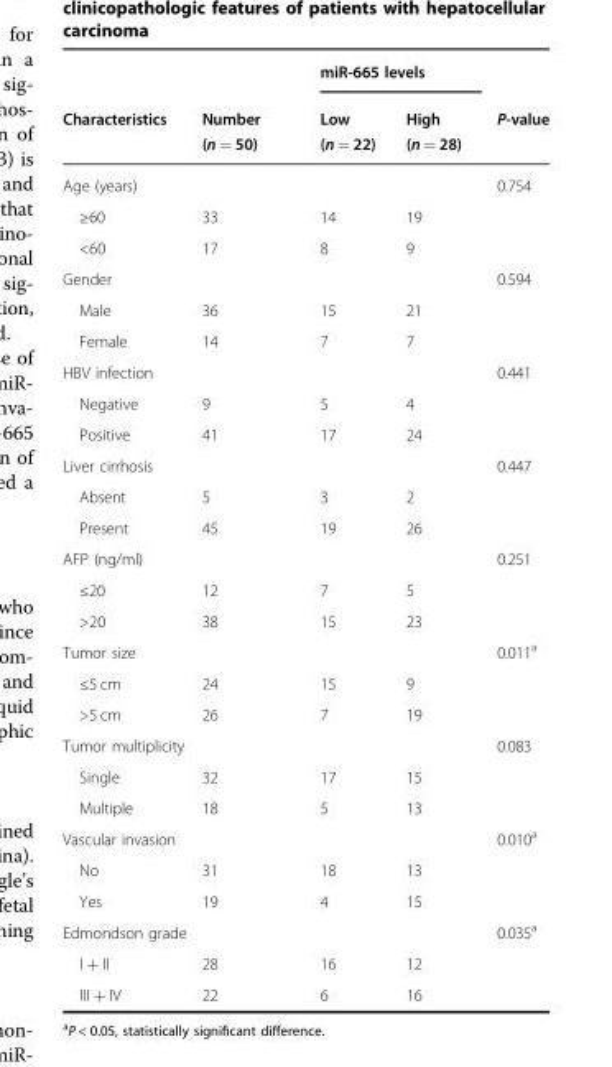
<table><thead><tr><td rowspan="2">Characteristics</td><td rowspan="2">Number (n = 50)</td><td colspan="2">miR-665 levels</td><td rowspan="2">P-value</td></tr><tr><td>Low (n = 22)</td><td>High (n = 28)</td></tr></thead><tbody><tr><td>Age (years)</td><td></td><td></td><td></td><td>0.754</td></tr><tr><td>≥60</td><td>33</td><td>14</td><td>19</td><td></td></tr><tr><td>&lt;60</td><td>17</td><td>8</td><td>9</td><td></td></tr><tr><td>Gender</td><td></td><td></td><td></td><td>0.594</td></tr><tr><td>Male</td><td>36</td><td>15</td><td>21</td><td></td></tr><tr><td>Female</td><td>14</td><td>7</td><td>7</td><td></td></tr><tr><td>HBV infection</td><td></td><td></td><td></td><td>0.441</td></tr><tr><td>Negative</td><td>9</td><td>5</td><td>4</td><td></td></tr><tr><td>Positive</td><td>41</td><td>17</td><td>24</td><td></td></tr><tr><td>Liver cirrhosis</td><td></td><td></td><td></td><td>0.447</td></tr><tr><td>Absent</td><td>5</td><td>3</td><td>2</td><td></td></tr><tr><td>Present</td><td>45</td><td>19</td><td>26</td><td></td></tr><tr><td>AFP (ng/ml)</td><td></td><td></td><td></td><td>0.251</td></tr><tr><td>≤20</td><td>12</td><td>7</td><td>5</td><td></td></tr><tr><td>&gt;20</td><td>38</td><td>15</td><td>23</td><td></td></tr><tr><td>Tumor size</td><td></td><td></td><td></td><td>0.011a</td></tr><tr><td>≤5 cm</td><td>24</td><td>15</td><td>9</td><td></td></tr><tr><td>&gt;5 cm</td><td>26</td><td>7</td><td>19</td><td></td></tr><tr><td>Tumor multiplicity</td><td></td><td></td><td></td><td>0.083</td></tr><tr><td>Single</td><td>32</td><td>17</td><td>15</td><td></td></tr><tr><td>Multiple</td><td>18</td><td>5</td><td>13</td><td></td></tr><tr><td>Vascular invasion</td><td></td><td></td><td></td><td>0.010a</td></tr><tr><td>No</td><td>31</td><td>18</td><td>13</td><td></td></tr><tr><td>Yes</td><td>19</td><td>4</td><td>15</td><td></td></tr><tr><td>Edmondson grade</td><td></td><td></td><td></td><td>0.035a</td></tr><tr><td>I + II</td><td>28</td><td>16</td><td>12</td><td></td></tr><tr><td>III + IV</td><td>22</td><td>6</td><td>16</td><td></td></tr></tbody></table>